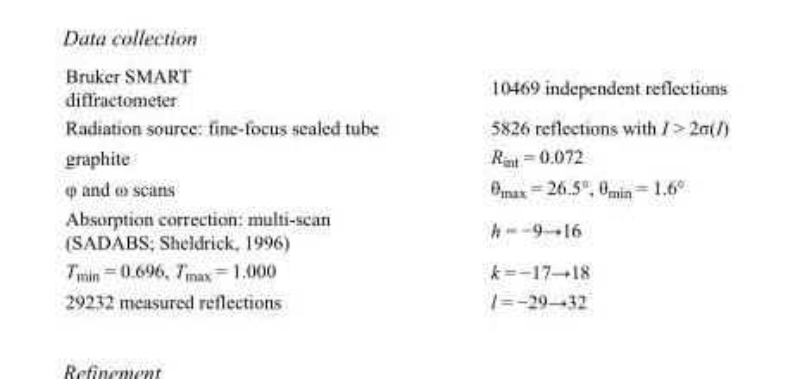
<table><tbody><tr><td>Bruker SMART diffractometer</td><td>10469 independent reflections</td></tr><tr><td>Radiation source: fine-focus sealed tube</td><td>5826 reflections with I &gt; 2σ(I)</td></tr><tr><td>graphite</td><td>R<sub>int</sub> = 0.072</td></tr><tr><td>φ and ω scans</td><td>θ<sub>max</sub> = 26.5°, θ<sub>min</sub> = 1.6°</td></tr><tr><td>Absorption correction: multi-scan (SADABS; Sheldrick, 1996)</td><td>h = −9→16</td></tr><tr><td>T<sub>min</sub> = 0.696, T<sub>max</sub> = 1.000</td><td>k = −17→18</td></tr><tr><td>29232 measured reflections</td><td>l = −29→32</td></tr></tbody></table>